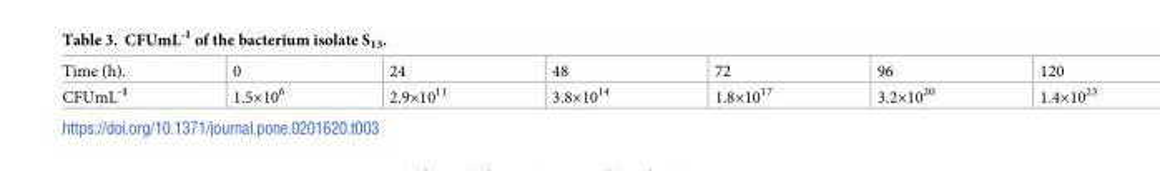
<table><tbody><tr><td>Time (h).</td><td>0</td><td>24</td><td>48</td><td>72</td><td>96</td><td>120</td></tr><tr><td>CFUmL<sup>-1</sup></td><td>1.5×10<sup>6</sup></td><td>2.9×10<sup>11</sup></td><td>3.8×10<sup>14</sup></td><td>1.8×10<sup>17</sup></td><td>3.2×10<sup>20</sup></td><td>1.4×10<sup>23</sup></td></tr></tbody></table>